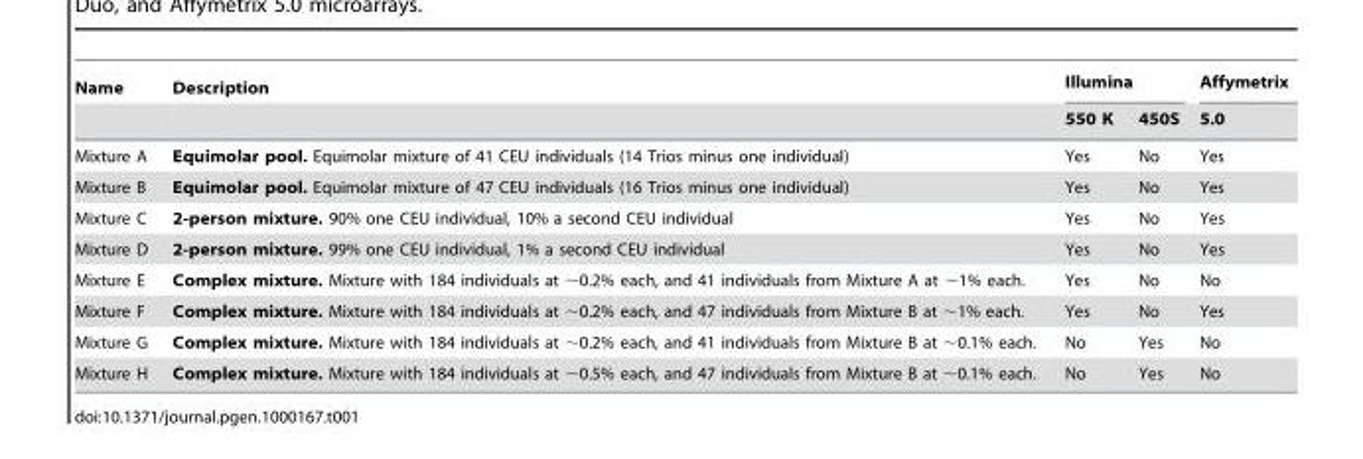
<table><thead><tr><td rowspan="2">Name</td><td rowspan="2">Description</td><td colspan="2">Illumina</td><td rowspan="2">Affymetrix 5.0</td></tr><tr><td>550 K</td><td>450S</td></tr></thead><tbody><tr><td>Mixture A</td><td>Equimolar pool. Equimolar mixture of 41 CEU individuals (14 Trios minus one individual)</td><td>Yes</td><td>No</td><td>Yes</td></tr><tr><td>Mixture B</td><td>Equimolar pool. Equimolar mixture of 47 CEU individuals (16 Trios minus one individual)</td><td>Yes</td><td>No</td><td>Yes</td></tr><tr><td>Mixture C</td><td>2-person mixture. 90% one CEU individual, 10% a second CEU individual</td><td>Yes</td><td>No</td><td>Yes</td></tr><tr><td>Mixture D</td><td>2-person mixture. 99% one CEU individual, 1% a second CEU individual</td><td>Yes</td><td>No</td><td>Yes</td></tr><tr><td>Mixture E</td><td>Complex mixture. Mixture with 184 individuals at ∼0.2% each, and 41 individuals from Mixture A at ∼1% each.</td><td>Yes</td><td>No</td><td>No</td></tr><tr><td>Mixture F</td><td>Complex mixture. Mixture with 184 individuals at ∼0.2% each, and 47 individuals from Mixture B at ∼1% each.</td><td>Yes</td><td>No</td><td>Yes</td></tr><tr><td>Mixture G</td><td>Complex mixture. Mixture with 184 individuals at ∼0.2% each, and 41 individuals from Mixture B at ∼0.1% each.</td><td>No</td><td>Yes</td><td>No</td></tr><tr><td>Mixture H</td><td>Complex mixture. Mixture with 184 individuals at ∼0.5% each, and 47 individuals from Mixture B at ∼0.1% each.</td><td>No</td><td>Yes</td><td>No</td></tr></tbody></table>